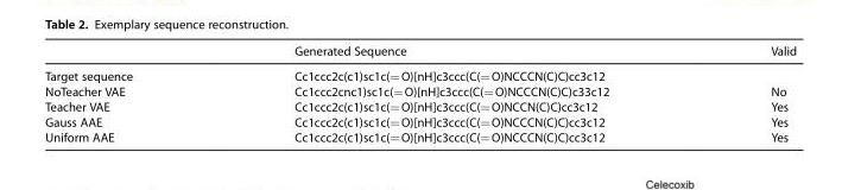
<table><thead><tr><td></td><td>Generated Sequence</td><td>Valid</td></tr></thead><tbody><tr><td>Target sequence</td><td>Cc1ccc2c(c1)sc1c(=O)[nH]c3ccc(C(=O)NCCCN(C)C)cc3c12</td><td></td></tr><tr><td>NoTeacher VAE</td><td>Cc1ccc2cnc1)sc1c(=O)[nH]c3ccc(C(=O)NCCCN(C)C)c33c12</td><td>No</td></tr><tr><td>Teacher VAE</td><td>Cc1ccc2c(c1)sc1c(=O)[nH]c3ccc(C(=O)NCCN(C)C)cc3c12</td><td>Yes</td></tr><tr><td>Gauss AAE</td><td>Cc1ccc2c(c1)sc1c(=O)[nH]c3ccc(C(=O)NCCCN(C)C)cc3c12</td><td>Yes</td></tr><tr><td>Uniform AAE</td><td>Cc1ccc2c(c1)sc1c(=O)[nH]c3ccc(C(=O)NCCCN(C)C)cc3c12</td><td>Yes</td></tr></tbody></table>